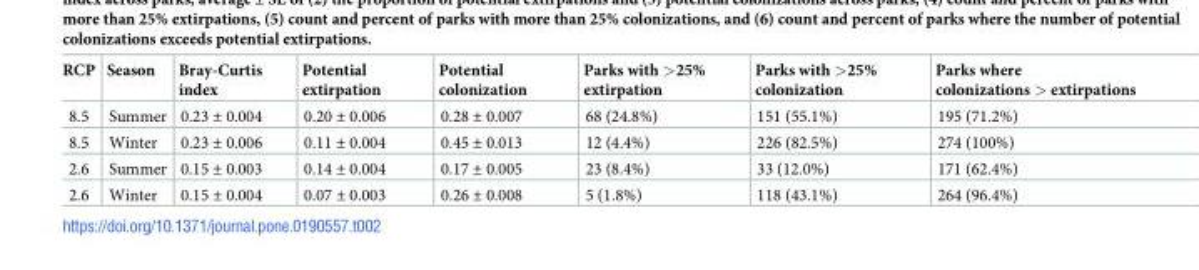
<table><thead><tr><td>RCP</td><td>Season</td><td>Bray-Curtis index</td><td>Potential extirpation</td><td>Potential colonization</td><td>Parks with &gt;25% extirpation</td><td>Parks with &gt;25% colonization</td><td>Parks where colonizations &gt; extirpations</td></tr></thead><tbody><tr><td>8.5</td><td>Summer</td><td>0.23 ± 0.004</td><td>0.20 ± 0.006</td><td>0.28 ± 0.007</td><td>68 (24.8%)</td><td>151 (55.1%)</td><td>195 (71.2%)</td></tr><tr><td>8.5</td><td>Winter</td><td>0.23 ± 0.006</td><td>0.11 ± 0.004</td><td>0.45 ± 0.013</td><td>12 (4.4%)</td><td>226 (82.5%)</td><td>274 (100%)</td></tr><tr><td>2.6</td><td>Summer</td><td>0.15 ± 0.003</td><td>0.14 ± 0.004</td><td>0.17 ± 0.005</td><td>23 (8.4%)</td><td>33 (12.0%)</td><td>171 (62.4%)</td></tr><tr><td>2.6</td><td>Winter</td><td>0.15 ± 0.004</td><td>0.07 ± 0.003</td><td>0.26 ± 0.008</td><td>5 (1.8%)</td><td>118 (43.1%)</td><td>264 (96.4%)</td></tr></tbody></table>